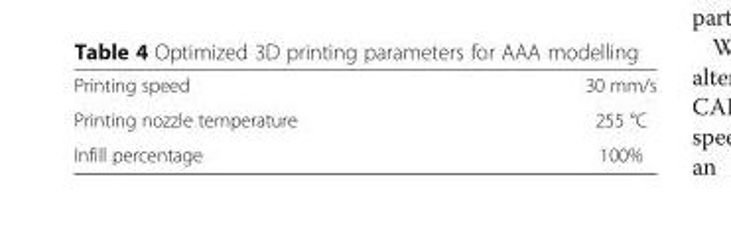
<table><tbody><tr><td>Printing speed</td><td>30 mm/s</td></tr><tr><td>Printing nozzle temperature</td><td>255 °C</td></tr><tr><td>Infill percentage</td><td>100%</td></tr></tbody></table>